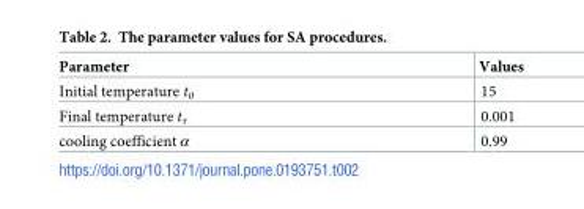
<table><thead><tr><td>Parameter</td><td>Values</td></tr></thead><tbody><tr><td>Initial temperature t<sub>0</sub></td><td>15</td></tr><tr><td>Final temperature t<sub>τ</sub></td><td>0.001</td></tr><tr><td>cooling coefficient α</td><td>0.99</td></tr></tbody></table>